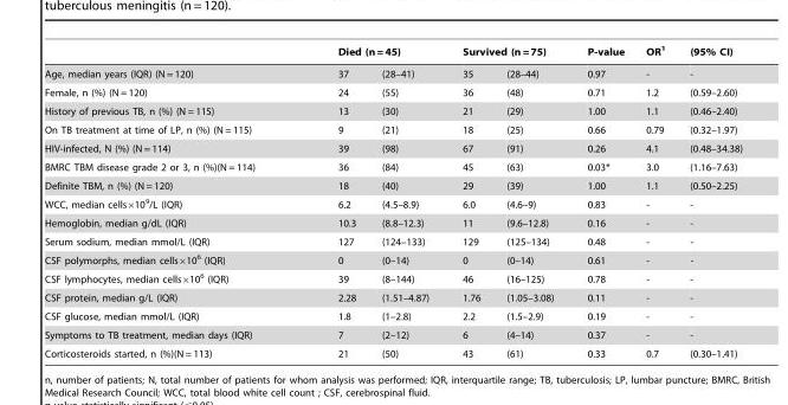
<table><thead><tr><td rowspan="2">Age, median years (IQR) (N = 120)</td><td colspan="2">Died (n = 45)</td><td colspan="2">Survived (n = 75)</td><td rowspan="2">P-value 0.97</td><td rowspan="2">OR<sup>1</sup> -</td><td rowspan="2">(95% CI) -</td></tr><tr><td>37</td><td>(28–41)</td><td>35</td><td>(28–44)</td></tr></thead><tbody><tr><td>Female, n (%) (N = 120)</td><td>24</td><td>(55)</td><td>36</td><td>(48)</td><td>0.71</td><td>1.2</td><td>(0.59–2.60)</td></tr><tr><td>History of previous TB, n (%) (N = 115)</td><td>13</td><td>(30)</td><td>21</td><td>(29)</td><td>1.00</td><td>1.1</td><td>(0.46–2.40)</td></tr><tr><td>On TB treatment at time of LP, n (%) (N = 115)</td><td>9</td><td>(21)</td><td>18</td><td>(25)</td><td>0.66</td><td>0.79</td><td>(0.32–1.97)</td></tr><tr><td>HIV-infected, N (%) (N = 114)</td><td>39</td><td>(98)</td><td>67</td><td>(91)</td><td>0.26</td><td>4.1</td><td>(0.48–34.38)</td></tr><tr><td>BMRC TBM disease grade 2 or 3, n (%)(N = 114)</td><td>36</td><td>(84)</td><td>45</td><td>(63)</td><td>0.03*</td><td>3.0</td><td>(1.16–7.63)</td></tr><tr><td>Definite TBM, n (%) (N = 120)</td><td>18</td><td>(40)</td><td>29</td><td>(39)</td><td>1.00</td><td>1.1</td><td>(0.50–2.25)</td></tr><tr><td>WCC, median cells×10<sup>9</sup>/L (IQR)</td><td>6.2</td><td>(4.5–8.9)</td><td>6.0</td><td>(4.6–9)</td><td>0.83</td><td>-</td><td>-</td></tr><tr><td>Hemoglobin, median g/dL (IQR)</td><td>10.3</td><td>(8.8–12.3)</td><td>11</td><td>(9.6–12.8)</td><td>0.16</td><td>-</td><td>-</td></tr><tr><td>Serum sodium, median mmol/L (IQR)</td><td>127</td><td>(124–133)</td><td>129</td><td>(125–134)</td><td>0.48</td><td>-</td><td>-</td></tr><tr><td>CSF polymorphs, median cells×10<sup>6</sup> (IQR)</td><td>0</td><td>(0–14)</td><td>0</td><td>(0–14)</td><td>0.61</td><td>-</td><td>-</td></tr><tr><td>CSF lymphocytes, median cells×10<sup>6</sup> (IQR)</td><td>39</td><td>(8–144)</td><td>46</td><td>(16–125)</td><td>0.78</td><td>-</td><td>-</td></tr><tr><td>CSF protein, median g/L (IQR)</td><td>2.28</td><td>(1.51–4.87)</td><td>1.76</td><td>(1.05–3.08)</td><td>0.11</td><td>-</td><td>-</td></tr><tr><td>CSF glucose, median mmol/L (IQR)</td><td>1.8</td><td>(1–2.8)</td><td>2.2</td><td>(1.5–2.9)</td><td>0.19</td><td>-</td><td>-</td></tr><tr><td>Symptoms to TB treatment, median days (IQR)</td><td>7</td><td>(2–12)</td><td>6</td><td>(4–14)</td><td>0.37</td><td>-</td><td>-</td></tr><tr><td>Corticosteroids started, n (%)(N = 113)</td><td>21</td><td>(50)</td><td>43</td><td>(61)</td><td>0.33</td><td>0.7</td><td>(0.30–1.41)</td></tr></tbody></table>